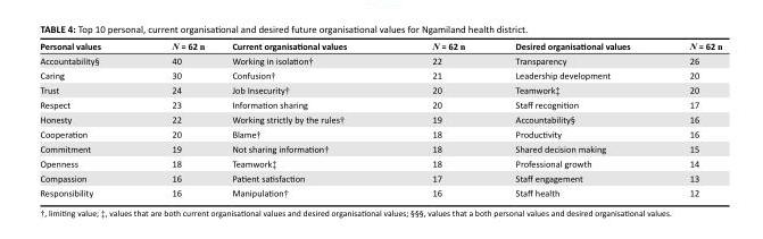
<table><thead><tr><td>Personal values</td><td>N = 62 n</td><td>Current organisational values</td><td>N = 62 n</td><td>Desired organisational values</td><td>N = 62 n</td></tr></thead><tbody><tr><td>Accountability§</td><td>40</td><td>Working in isolation†</td><td>22</td><td>Transparency</td><td>26</td></tr><tr><td>Caring</td><td>30</td><td>Confusion†</td><td>21</td><td>Leadership development</td><td>20</td></tr><tr><td>Trust</td><td>24</td><td>Job Insecurity†</td><td>20</td><td>Teamwork‡</td><td>20</td></tr><tr><td>Respect</td><td>23</td><td>Information sharing</td><td>20</td><td>Staff recognition</td><td>17</td></tr><tr><td>Honesty</td><td>22</td><td>Working strictly by the rules†</td><td>19</td><td>Accountability§</td><td>16</td></tr><tr><td>Cooperation</td><td>20</td><td>Blame†</td><td>18</td><td>Productivity</td><td>16</td></tr><tr><td>Commitment</td><td>19</td><td>Not sharing information†</td><td>18</td><td>Shared decision making</td><td>15</td></tr><tr><td>Openness</td><td>18</td><td>Teamwork‡</td><td>18</td><td>Professional growth</td><td>14</td></tr><tr><td>Compassion</td><td>16</td><td>Patient satisfaction</td><td>17</td><td>Staff engagement</td><td>13</td></tr><tr><td>Responsibility</td><td>16</td><td>Manipulation†</td><td>16</td><td>Staff health</td><td>12</td></tr></tbody></table>